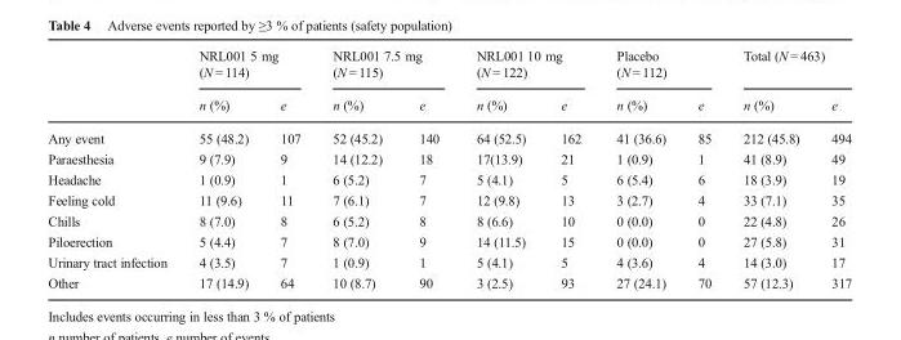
<table><thead><tr><td rowspan="2"></td><td colspan="2">NRL001 5 mg (N = 114)</td><td colspan="2">NRL001 7.5 mg (N = 115)</td><td colspan="2">NRL001 10 mg (N = 122)</td><td colspan="2">Placebo (N = 112)</td><td colspan="2">Total (N = 463)</td></tr><tr><td>n (%)</td><td>e</td><td>n (%)</td><td>e</td><td>n (%)</td><td>e</td><td>n (%)</td><td>e</td><td>n (%)</td><td>e</td></tr></thead><tbody><tr><td>Any event</td><td>55 (48.2)</td><td>107</td><td>52 (45.2)</td><td>140</td><td>64 (52.5)</td><td>162</td><td>41 (36.6)</td><td>85</td><td>212 (45.8)</td><td>494</td></tr><tr><td>Paraesthesia</td><td>9 (7.9)</td><td>9</td><td>14 (12.2)</td><td>18</td><td>17(13.9)</td><td>21</td><td>1 (0.9)</td><td>1</td><td>41 (8.9)</td><td>49</td></tr><tr><td>Headache</td><td>1 (0.9)</td><td>1</td><td>6 (5.2)</td><td>7</td><td>5 (4.1)</td><td>5</td><td>6 (5.4)</td><td>6</td><td>18 (3.9)</td><td>19</td></tr><tr><td>Feeling cold</td><td>11 (9.6)</td><td>11</td><td>7 (6.1)</td><td>7</td><td>12 (9.8)</td><td>13</td><td>3 (2.7)</td><td>4</td><td>33 (7.1)</td><td>35</td></tr><tr><td>Chills</td><td>8 (7.0)</td><td>8</td><td>6 (5.2)</td><td>8</td><td>8 (6.6)</td><td>10</td><td>0 (0.0)</td><td>0</td><td>22 (4.8)</td><td>26</td></tr><tr><td>Piloerection</td><td>5 (4.4)</td><td>7</td><td>8 (7.0)</td><td>9</td><td>14 (11.5)</td><td>15</td><td>0 (0.0)</td><td>0</td><td>27 (5.8)</td><td>31</td></tr><tr><td>Urinary tract infection</td><td>4 (3.5)</td><td>7</td><td>1 (0.9)</td><td>1</td><td>5 (4.1)</td><td>5</td><td>4 (3.6)</td><td>4</td><td>14 (3.0)</td><td>17</td></tr><tr><td>Other</td><td>17 (14.9)</td><td>64</td><td>10 (8.7)</td><td>90</td><td>3 (2.5)</td><td>93</td><td>27 (24.1)</td><td>70</td><td>57 (12.3)</td><td>317</td></tr></tbody></table>